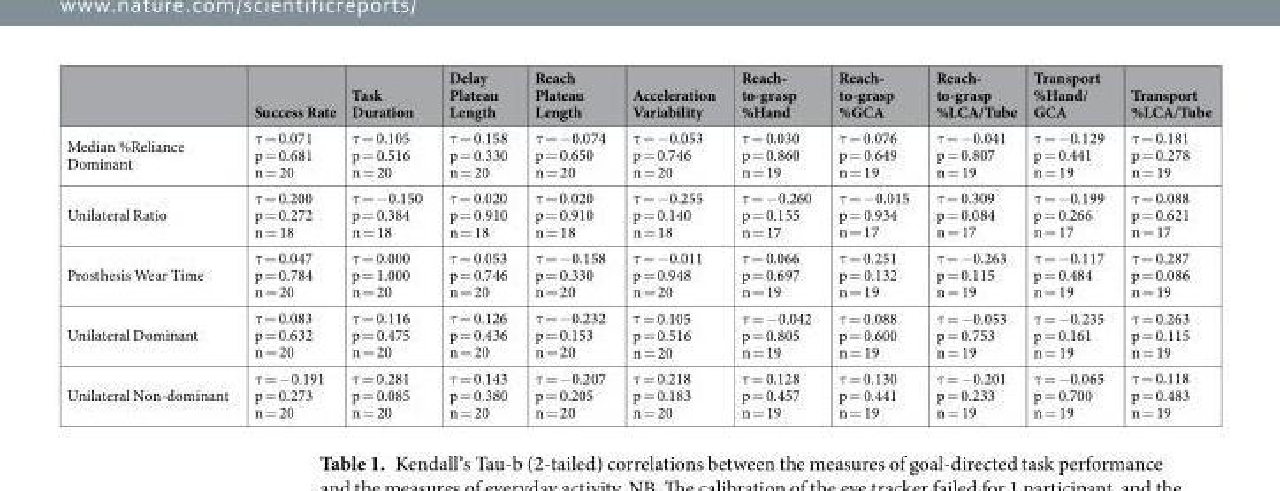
<table><thead><tr><td></td><td>Success Rate</td><td>Task Duration</td><td>Delay Plateau Length</td><td>Reach Plateau Length</td><td>Acceleration Variability</td><td>Reach- to-grasp %Hand</td><td>Reach- to-grasp %GCA</td><td>Reach- to-grasp %LCA/Tube</td><td>Transport %Hand/ GCA</td><td>Transport %LCA/Tube</td></tr></thead><tbody><tr><td>Median %Reliance Dominant</td><td>τ = 0.071 p = 0.681 n = 20</td><td>τ = 0.105 p = 0.516 n = 20</td><td>τ = 0.158 p = 0.330 n = 20</td><td>τ = −0.074 p = 0.650 n = 20</td><td>τ = −0.053 p = 0.746 n = 20</td><td>τ = 0.030 p = 0.860 n = 19</td><td>τ = 0.076 p = 0.649 n = 19</td><td>τ = −0.041 p = 0.807 n = 19</td><td>τ = −0.129 p = 0.441 n = 19</td><td>τ = 0.181 p = 0.278 n = 19</td></tr><tr><td>Unilateral Ratio</td><td>τ = 0.200 p = 0.272 n = 18</td><td>τ = −0.150 p = 0.384 n = 18</td><td>τ = 0.020 p = 0.910 n = 18</td><td>τ = 0.020 p = 0.910 n = 18</td><td>τ = −0.255 p = 0.140 n = 18</td><td>τ = −0.260 p = 0.155 n = 17</td><td>τ = −0.015 p = 0.934 n = 17</td><td>τ = 0.309 p = 0.084 n = 17</td><td>τ = −0.199 p = 0.266 n = 17</td><td>τ = 0.088 p = 0.621 n = 17</td></tr><tr><td>Prosthesis Wear Time</td><td>τ = 0.047 p = 0.784 n = 20</td><td>τ = 0.000 p = 1.000 n = 20</td><td>τ = 0.053 p = 0.746 n = 20</td><td>τ = −0.158 p = 0.330 n = 20</td><td>τ = −0.011 p = 0.948 n = 20</td><td>τ = 0.066 p = 0.697 n = 19</td><td>τ = 0.251 p = 0.132 n = 19</td><td>τ = −0.263 p = 0.115 n = 19</td><td>τ = −0.117 p = 0.484 n = 19</td><td>τ = 0.287 p = 0.086 n = 19</td></tr><tr><td>Unilateral Dominant</td><td>τ = 0.083 p = 0.632 n = 20</td><td>τ = 0.116 p = 0.475 n = 20</td><td>τ = 0.126 p = 0.436 n = 20</td><td>τ = −0.232 p = 0.153 n = 20</td><td>τ = 0.105 p = 0.516 n = 20</td><td>τ = −0.042 p = 0.805 n = 19</td><td>τ = 0.088 p = 0.600 n = 19</td><td>τ = −0.053 p = 0.753 n = 19</td><td>τ = −0.235 p = 0.161 n = 19</td><td>τ = 0.263 p = 0.115 n = 19</td></tr><tr><td>Unilateral Non-dominant</td><td>τ = −0.191 p = 0.273 n = 20</td><td>τ = 0.281 p = 0.085 n = 20</td><td>τ = 0.143 p = 0.380 n = 20</td><td>τ = −0.207 p = 0.205 n = 20</td><td>τ = 0.218 p = 0.183 n = 20</td><td>τ = 0.128 p = 0.457 n = 19</td><td>τ = 0.130 p = 0.441 n = 19</td><td>τ = −0.201 p = 0.233 n = 19</td><td>τ = −0.065 p = 0.700 n = 19</td><td>τ = 0.118 p = 0.483 n = 19</td></tr></tbody></table>